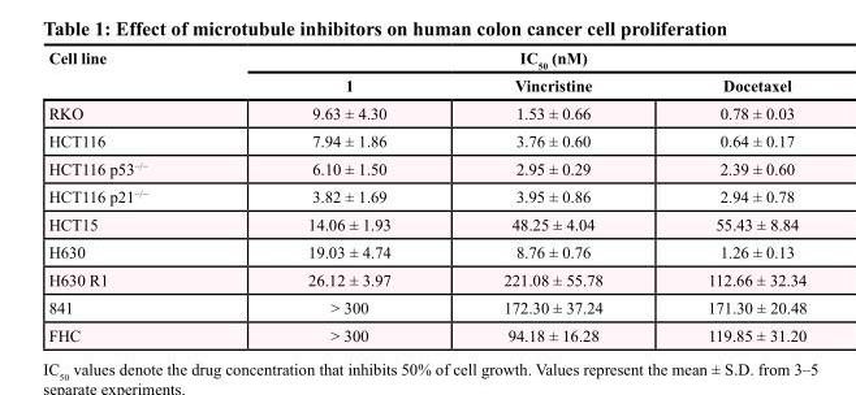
<table><thead><tr><td rowspan="2">Cell line</td><td colspan="3">IC<sub>50</sub> (nM)</td></tr><tr><td>1</td><td>Vincristine</td><td>Docetaxel</td></tr></thead><tbody><tr><td>RKO</td><td>9.63 ± 4.30</td><td>1.53 ± 0.66</td><td>0.78 ± 0.03</td></tr><tr><td>HCT116</td><td>7.94 ± 1.86</td><td>3.76 ± 0.60</td><td>0.64 ± 0.17</td></tr><tr><td>HCT116 p53<sup>−/−</sup></td><td>6.10 ± 1.50</td><td>2.95 ± 0.29</td><td>2.39 ± 0.60</td></tr><tr><td>HCT116 p21<sup>−/−</sup></td><td>3.82 ± 1.69</td><td>3.95 ± 0.86</td><td>2.94 ± 0.78</td></tr><tr><td>HCT15</td><td>14.06 ± 1.93</td><td>48.25 ± 4.04</td><td>55.43 ± 8.84</td></tr><tr><td>H630</td><td>19.03 ± 4.74</td><td>8.76 ± 0.76</td><td>1.26 ± 0.13</td></tr><tr><td>H630 R1</td><td>26.12 ± 3.97</td><td>221.08 ± 55.78</td><td>112.66 ± 32.34</td></tr><tr><td>841</td><td>&gt; 300</td><td>172.30 ± 37.24</td><td>171.30 ± 20.48</td></tr><tr><td>FHC</td><td>&gt; 300</td><td>94.18 ± 16.28</td><td>119.85 ± 31.20</td></tr></tbody></table>